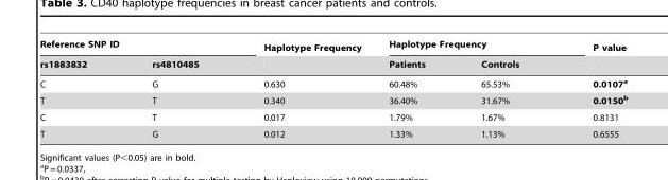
<table><thead><tr><td colspan="2">Reference SNP ID</td><td rowspan="2">Haplotype Frequency</td><td colspan="2">Haplotype Frequency</td><td rowspan="2">P value</td></tr><tr><td>rs1883832</td><td>rs4810485</td><td>Patients</td><td>Controls</td></tr></thead><tbody><tr><td>C</td><td>G</td><td>0.630</td><td>60.48%</td><td>65.53%</td><td>0.0107a</td></tr><tr><td>T</td><td>T</td><td>0.340</td><td>36.40%</td><td>31.67%</td><td>0.0150b</td></tr><tr><td>C</td><td>T</td><td>0.017</td><td>1.79%</td><td>1.67%</td><td>0.8131</td></tr><tr><td>T</td><td>G</td><td>0.012</td><td>1.33%</td><td>1.13%</td><td>0.6555</td></tr></tbody></table>